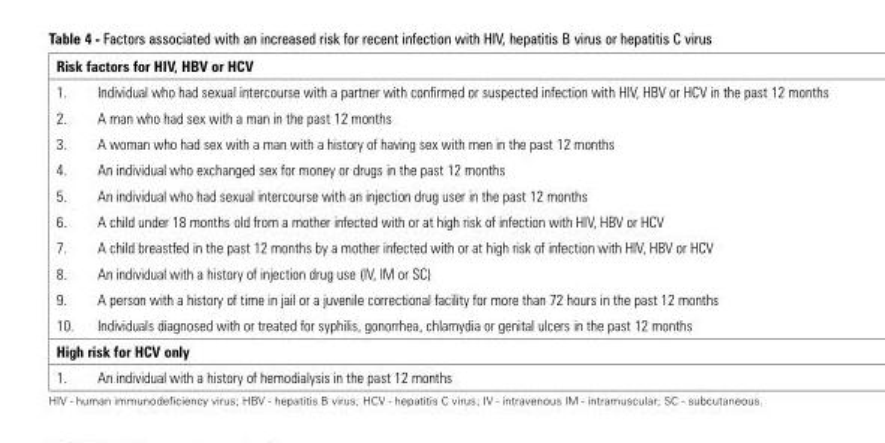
<table><tbody><tr><td colspan="2">Risk factors for HIV, HBV or HCV</td></tr><tr><td>1.</td><td>Individual who had sexual intercourse with a partner with confirmed or suspected infection with HIV, HBV or HCV in the past 12 months</td></tr><tr><td>2.</td><td>A man who had sex with a man in the past 12 months</td></tr><tr><td>3.</td><td>A woman who had sex with a man with a history of having sex with men in the past 12 months</td></tr><tr><td>4.</td><td>An individual who exchanged sex for money or drugs in the past 12 months</td></tr><tr><td>5.</td><td>An individual who had sexual intercourse with an injection drug user in the past 12 months</td></tr><tr><td>6.</td><td>A child under 18 months old from a mother infected with or at high risk of infection with HIV, HBV or HCV</td></tr><tr><td>7.</td><td>A child breastfed in the past 12 months by a mother infected with or at high risk of infection with HIV, HBV or HCV</td></tr><tr><td>8.</td><td>An individual with a history of injection drug use (IV, IM or SC)</td></tr><tr><td>9.</td><td>A person with a history of time in jail or a juvenile correctional facility for more than 72 hours in the past 12 months</td></tr><tr><td>10.</td><td>Individuals diagnosed with or treated for syphilis, gonorrhea, chlamydia or genital ulcers in the past 12 months</td></tr><tr><td colspan="2">High risk for HCV only</td></tr><tr><td>1.</td><td>An individual with a history of hemodialysis in the past 12 months</td></tr></tbody></table>